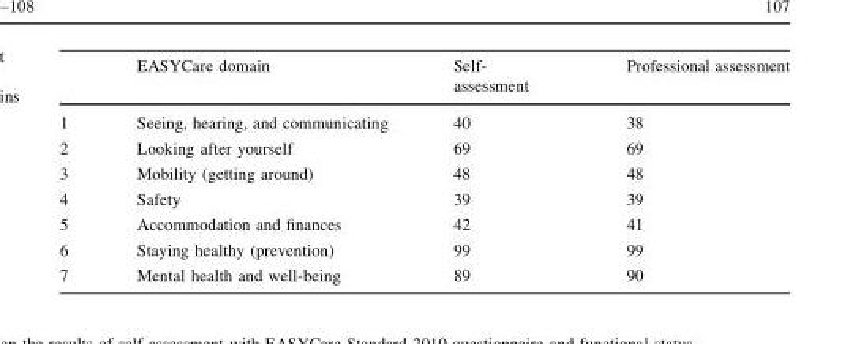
<table><thead><tr><td></td><td>EASYCare domain</td><td>Self- assessment</td><td>Professional assessment</td></tr></thead><tbody><tr><td>1</td><td>Seeing, hearing, and communicating</td><td>40</td><td>38</td></tr><tr><td>2</td><td>Looking after yourself</td><td>69</td><td>69</td></tr><tr><td>3</td><td>Mobility (getting around)</td><td>48</td><td>48</td></tr><tr><td>4</td><td>Safety</td><td>39</td><td>39</td></tr><tr><td>5</td><td>Accommodation and finances</td><td>42</td><td>41</td></tr><tr><td>6</td><td>Staying healthy (prevention)</td><td>99</td><td>99</td></tr><tr><td>7</td><td>Mental health and well-being</td><td>89</td><td>90</td></tr></tbody></table>